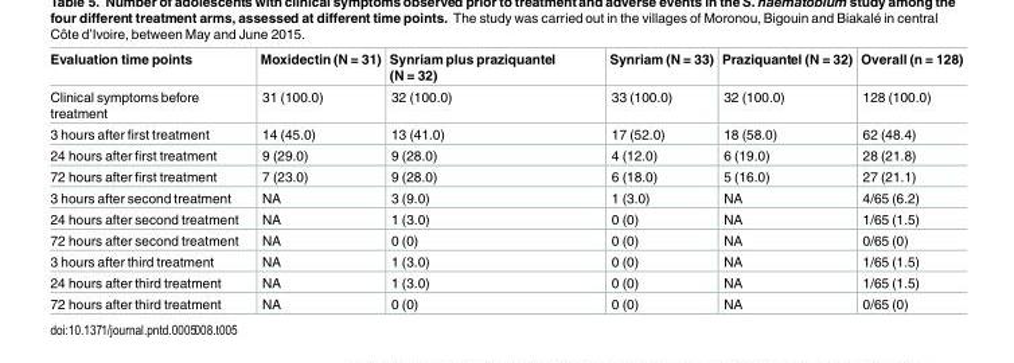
<table><thead><tr><td>Evaluation time points</td><td>Moxidectin (N = 31)</td><td>Synriam plus praziquantel (N = 32)</td><td>Synriam (N = 33)</td><td>Praziquantel (N = 32)</td><td>Overall (n = 128)</td></tr></thead><tbody><tr><td>Clinical symptoms before treatment</td><td>31 (100.0)</td><td>32 (100.0)</td><td>33 (100.0)</td><td>32 (100.0)</td><td>128 (100.0)</td></tr><tr><td>3 hours after first treatment</td><td>14 (45.0)</td><td>13 (41.0)</td><td>17 (52.0)</td><td>18 (58.0)</td><td>62 (48.4)</td></tr><tr><td>24 hours after first treatment</td><td>9 (29.0)</td><td>9 (28.0)</td><td>4 (12.0)</td><td>6 (19.0)</td><td>28 (21.8)</td></tr><tr><td>72 hours after first treatment</td><td>7 (23.0)</td><td>9 (28.0)</td><td>6 (18.0)</td><td>5 (16.0)</td><td>27 (21.1)</td></tr><tr><td>3 hours after second treatment</td><td>NA</td><td>3 (9.0)</td><td>1 (3.0)</td><td>NA</td><td>4/65 (6.2)</td></tr><tr><td>24 hours after second treatment</td><td>NA</td><td>1 (3.0)</td><td>0 (0)</td><td>NA</td><td>1/65 (1.5)</td></tr><tr><td>72 hours after second treatment</td><td>NA</td><td>0 (0)</td><td>0 (0)</td><td>NA</td><td>0/65 (0)</td></tr><tr><td>3 hours after third treatment</td><td>NA</td><td>1 (3.0)</td><td>0 (0)</td><td>NA</td><td>1/65 (1.5)</td></tr><tr><td>24 hours after third treatment</td><td>NA</td><td>1 (3.0)</td><td>0 (0)</td><td>NA</td><td>1/65 (1.5)</td></tr><tr><td>72 hours after third treatment</td><td>NA</td><td>0 (0)</td><td>0 (0)</td><td>NA</td><td>0/65 (0)</td></tr></tbody></table>